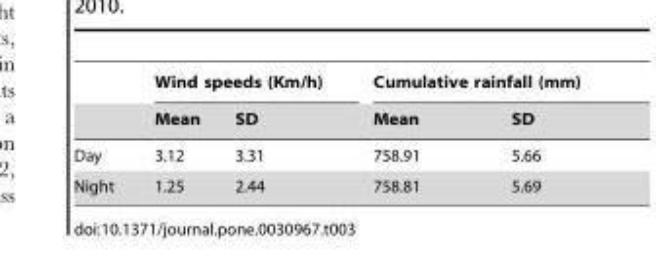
<table><thead><tr><td rowspan="2"></td><td colspan="2">Wind speeds (Km/h)</td><td colspan="2">Cumulative rainfall (mm)</td></tr><tr><td>Mean</td><td>SD</td><td>Mean</td><td>SD</td></tr></thead><tbody><tr><td>Day</td><td>3.12</td><td>3.31</td><td>758.91</td><td>5.66</td></tr><tr><td>Night</td><td>1.25</td><td>2.44</td><td>758.81</td><td>5.69</td></tr></tbody></table>